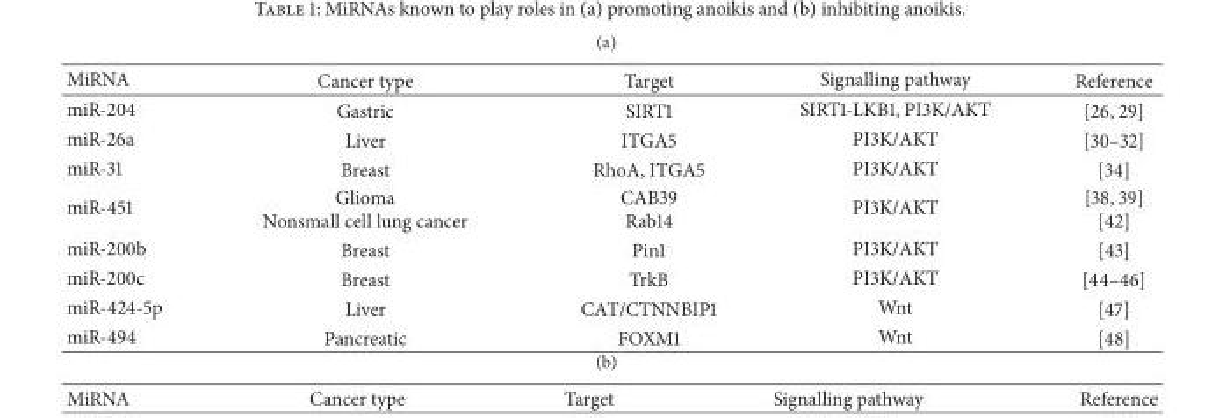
<table><thead><tr><td>MiRNA</td><td>Cancer type</td><td>Target</td><td>Signalling pathway</td><td>Reference</td></tr></thead><tbody><tr><td>miR-204</td><td>Gastric</td><td>SIRT1</td><td>SIRT1-LKB1, PI3K/AKT</td><td>[26, 29]</td></tr><tr><td>miR-26a</td><td>Liver</td><td>ITGA5</td><td>PI3K/AKT</td><td>[30–32]</td></tr><tr><td>miR-31</td><td>Breast</td><td>RhoA, ITGA5</td><td>PI3K/AKT</td><td>[34]</td></tr><tr><td>miR-451</td><td>Glioma Nonsmall cell lung cancer</td><td>CAB39 Rab14</td><td>PI3K/AKT</td><td>[38, 39] [42]</td></tr><tr><td>miR-200b</td><td>Breast</td><td>Pin1</td><td>PI3K/AKT</td><td>[43]</td></tr><tr><td>miR-200c</td><td>Breast</td><td>TrkB</td><td>PI3K/AKT</td><td>[44–46]</td></tr><tr><td>miR-424-5p</td><td>Liver</td><td>CAT/CTNNBIP1</td><td>Wnt</td><td>[47]</td></tr><tr><td>miR-494</td><td>Pancreatic</td><td>FOXM1</td><td>Wnt</td><td>[48]</td></tr></tbody></table>